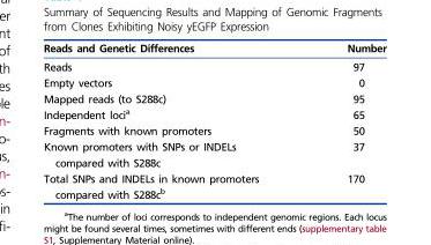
<table><thead><tr><td>Reads and Genetic Differences</td><td>Number</td></tr></thead><tbody><tr><td>Reads</td><td>97</td></tr><tr><td>Empty vectors</td><td>0</td></tr><tr><td>Mapped reads (to S288c)</td><td>95</td></tr><tr><td>Independent loci<sup>a</sup></td><td>65</td></tr><tr><td>Fragments with known promoters</td><td>50</td></tr><tr><td>Known promoters with SNPs or INDELs compared with S288c</td><td>37</td></tr><tr><td>Total SNPs and INDELs in known promoters compared with S288c<sup>b</sup></td><td>170</td></tr></tbody></table>